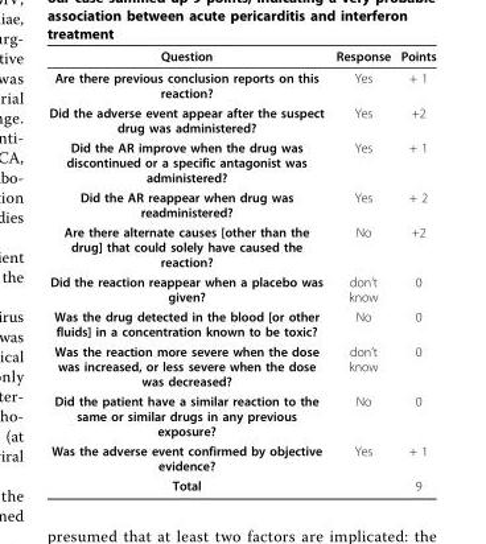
<table><thead><tr><td>Question</td><td>Response</td><td>Points</td></tr></thead><tbody><tr><td>Are there previous conclusion reports on this reaction?</td><td>Yes</td><td>+ 1</td></tr><tr><td>Did the adverse event appear after the suspect drug was administered?</td><td>Yes</td><td>+2</td></tr><tr><td>Did the AR improve when the drug was discontinued or a specific antagonist was administered?</td><td>Yes</td><td>+ 1</td></tr><tr><td>Did the AR reappear when drug was readministered?</td><td>Yes</td><td>+ 2</td></tr><tr><td>Are there alternate causes [other than the drug] that could solely have caused the reaction?</td><td>No</td><td>+2</td></tr><tr><td>Did the reaction reappear when a placebo was given?</td><td>don’t know</td><td>0</td></tr><tr><td>Was the drug detected in the blood [or other fluids] in a concentration known to be toxic?</td><td>No</td><td>0</td></tr><tr><td>Was the reaction more severe when the dose was increased, or less severe when the dose was decreased?</td><td>don’t know</td><td>0</td></tr><tr><td>Did the patient have a similar reaction to the same or similar drugs in any previous exposure?</td><td>No</td><td>0</td></tr><tr><td>Was the adverse event confirmed by objective evidence?</td><td>Yes</td><td>+ 1</td></tr><tr><td>Total</td><td></td><td>9</td></tr></tbody></table>